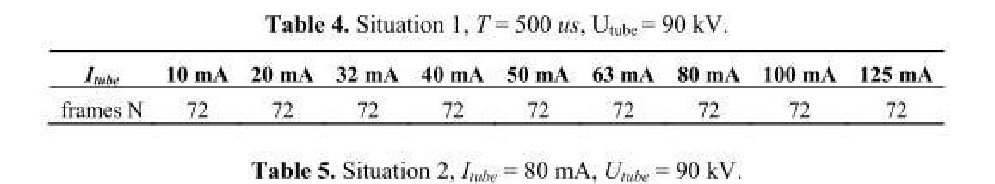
<table><thead><tr><td>I<sub>tube</sub></td><td>10 mA</td><td>20 mA</td><td>32 mA</td><td>40 mA</td><td>50 mA</td><td>63 mA</td><td>80 mA</td><td>100 mA</td><td>125 mA</td></tr></thead><tbody><tr><td>frames N</td><td>72</td><td>72</td><td>72</td><td>72</td><td>72</td><td>72</td><td>72</td><td>72</td><td>72</td></tr></tbody></table>